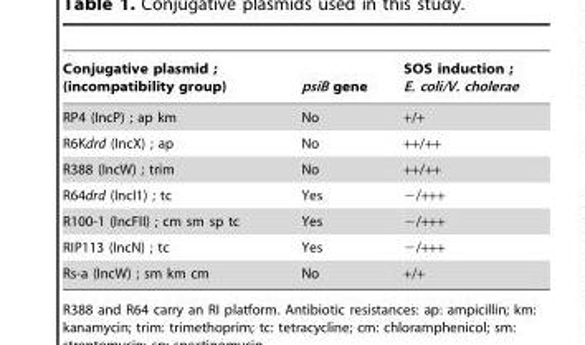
<table><thead><tr><td>Conjugative plasmid ; (incompatibility group)</td><td>psiB gene</td><td>SOS induction ; E. coli/V. cholerae</td></tr></thead><tbody><tr><td>RP4 (IncP) ; ap km</td><td>No</td><td>+/+</td></tr><tr><td>R6Kdrd (IncX) ; ap</td><td>No</td><td>++/++</td></tr><tr><td>R388 (IncW) ; trim</td><td>No</td><td>++/++</td></tr><tr><td>R64drd (IncI1) ; tc</td><td>Yes</td><td>−/+++</td></tr><tr><td>R100-1 (IncFII) ; cm sm sp tc</td><td>Yes</td><td>−/+++</td></tr><tr><td>RIP113 (IncN) ; tc</td><td>Yes</td><td>−/+++</td></tr><tr><td>Rs-a (IncW) ; sm km cm</td><td>No</td><td>+/+</td></tr></tbody></table>